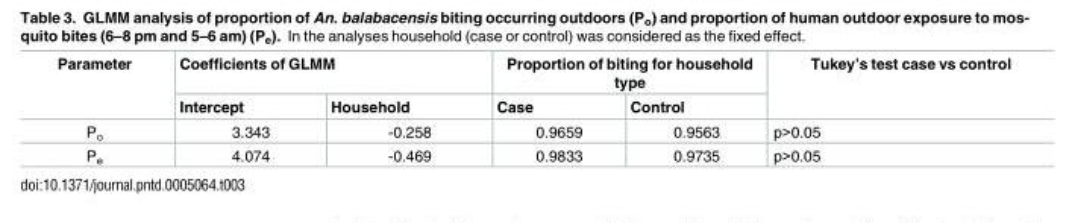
<table><thead><tr><td rowspan="2">Parameter</td><td colspan="2">Coefficients of GLMM</td><td colspan="2">Proportion of biting for household type</td><td rowspan="2">Tukey’s test case vs control</td></tr><tr><td>Intercept</td><td>Household</td><td>Case</td><td>Control</td></tr></thead><tbody><tr><td>P<sub>o</sub></td><td>3.343</td><td>-0.258</td><td>0.9659</td><td>0.9563</td><td>p&gt;0.05</td></tr><tr><td>P<sub>e</sub></td><td>4.074</td><td>-0.469</td><td>0.9833</td><td>0.9735</td><td>p&gt;0.05</td></tr></tbody></table>